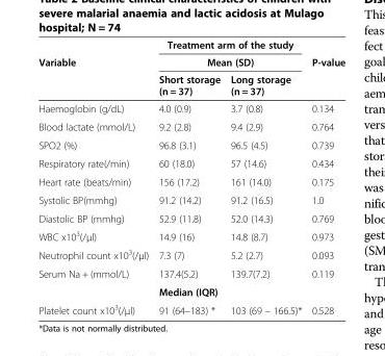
<table><thead><tr><td rowspan="3">Variable</td><td rowspan="2" colspan="2">Treatment arm of the study Mean (SD)</td><td rowspan="3">P-value</td></tr><tr></tr><tr><td>Short storage (n = 37)</td><td>Long storage (n = 37)</td></tr></thead><tbody><tr><td>Haemoglobin (g/dL)</td><td>4.0 (0.9)</td><td>3.7 (0.8)</td><td>0.134</td></tr><tr><td>Blood lactate (mmol/L)</td><td>9.2 (2.8)</td><td>9.4 (2.9)</td><td>0.764</td></tr><tr><td>SPO2 (%)</td><td>96.8 (3.1)</td><td>96.5 (4.5)</td><td>0.739</td></tr><tr><td>Respiratory rate(/min)</td><td>60 (18.0)</td><td>57 (14.6)</td><td>0.434</td></tr><tr><td>Heart rate (beats/min)</td><td>156 (17.2)</td><td>161 (14.0)</td><td>0.175</td></tr><tr><td>Systolic BP(mmhg)</td><td>91.2 (14.2)</td><td>91.2 (16.5)</td><td>1.0</td></tr><tr><td>Diastolic BP (mmhg)</td><td>52.9 (11.8)</td><td>52.0 (14.3)</td><td>0.769</td></tr><tr><td>WBC x10<sup>3</sup>(/μl)</td><td>14.9 (16)</td><td>14.8 (8.7)</td><td>0.973</td></tr><tr><td>Neutrophil count x10<sup>3</sup>(/μl)</td><td>7.3 (7)</td><td>5.2 (2.7)</td><td>0.093</td></tr><tr><td rowspan="2">Serum Na + (mmol/L)</td><td>137.4(5.2)</td><td>139.7(7.2)</td><td>0.119</td></tr><tr><td colspan="2">Median (IQR)</td><td></td></tr><tr><td>Platelet count x10<sup>3</sup>(/μl)</td><td>91 (64–183) *</td><td>103 (69 – 166.5)*</td><td>0.528</td></tr></tbody></table>